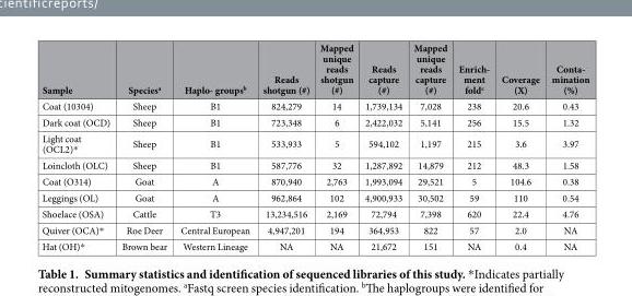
<table><thead><tr><td>Sample</td><td>Species<sup>a</sup></td><td>Haplo- groups<sup>b</sup></td><td>Reads shotgun (#)</td><td>Mapped unique reads shotgun (#)</td><td>Reads capture (#)</td><td>Mapped unique reads capture (#)</td><td>Enrich- ment fold<sup>c</sup></td><td>Coverage (X)</td><td>Conta- mination (%)</td></tr></thead><tbody><tr><td>Coat (10304)</td><td>Sheep</td><td>B1</td><td>824,279</td><td>14</td><td>1,739,134</td><td>7,028</td><td>238</td><td>20.6</td><td>0.43</td></tr><tr><td>Dark coat (OCD)</td><td>Sheep</td><td>B1</td><td>723,348</td><td>6</td><td>2,422,032</td><td>5,141</td><td>256</td><td>15.5</td><td>1.32</td></tr><tr><td>Light coat (OCL2)*</td><td>Sheep</td><td>B1</td><td>533,933</td><td>5</td><td>594,102</td><td>1,197</td><td>215</td><td>3.6</td><td>3.97</td></tr><tr><td>Loincloth (OLC)</td><td>Sheep</td><td>B1</td><td>587,776</td><td>32</td><td>1,287,892</td><td>14,879</td><td>212</td><td>48.3</td><td>1.58</td></tr><tr><td>Coat (O314)</td><td>Goat</td><td>A</td><td>870,940</td><td>2,763</td><td>1,993,094</td><td>29,521</td><td>5</td><td>104.6</td><td>0.38</td></tr><tr><td>Leggings (OL)</td><td>Goat</td><td>A</td><td>962,864</td><td>102</td><td>4,900,933</td><td>30,502</td><td>59</td><td>110</td><td>0.54</td></tr><tr><td>Shoelace (OSA)</td><td>Cattle</td><td>T3</td><td>13,234,516</td><td>2,169</td><td>72,794</td><td>7,398</td><td>620</td><td>22.4</td><td>4.76</td></tr><tr><td>Quiver (OCA)*</td><td>Roe Deer</td><td>Central European</td><td>4,947,201</td><td>194</td><td>364,953</td><td>822</td><td>57</td><td>2.0</td><td>NA</td></tr><tr><td>Hat (OH)*</td><td>Brown bear</td><td>Western Lineage</td><td>NA</td><td>NA</td><td>21,672</td><td>151</td><td>NA</td><td>0.4</td><td>NA</td></tr></tbody></table>